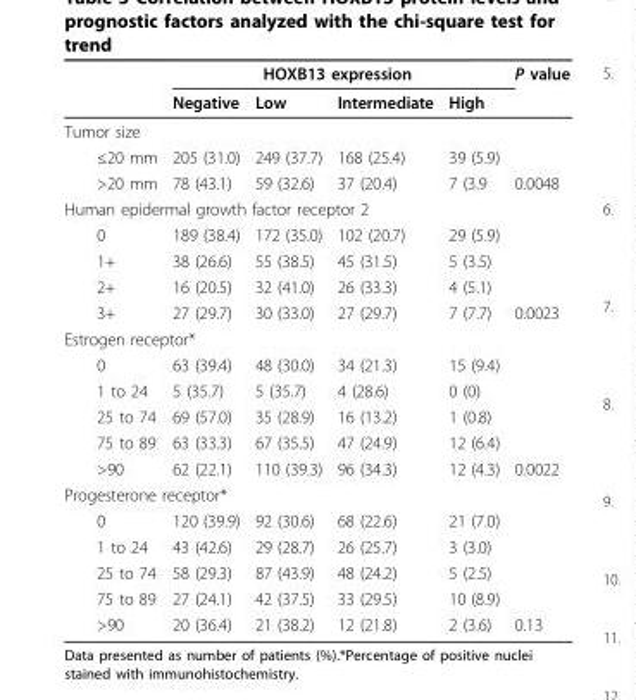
<table><thead><tr><td rowspan="2"></td><td colspan="4">HOXB13 expression</td><td rowspan="2">P value</td></tr><tr><td>Negative</td><td>Low</td><td>Intermediate</td><td>High</td></tr></thead><tbody><tr><td colspan="6">Tumor size</td></tr><tr><td>≤20 mm</td><td>205 (31.0)</td><td>249 (37.7)</td><td>168 (25.4)</td><td>39 (5.9)</td><td></td></tr><tr><td>&gt;20 mm</td><td>78 (43.1)</td><td>59 (32.6)</td><td>37 (20.4)</td><td>7 (3.9</td><td>0.0048</td></tr><tr><td colspan="6">Human epidermal growth factor receptor 2</td></tr><tr><td>0</td><td>189 (38.4)</td><td>172 (35.0)</td><td>102 (20.7)</td><td>29 (5.9)</td><td></td></tr><tr><td>1+</td><td>38 (26.6)</td><td>55 (38.5)</td><td>45 (31.5)</td><td>5 (3.5)</td><td></td></tr><tr><td>2+</td><td>16 (20.5)</td><td>32 (41.0)</td><td>26 (33.3)</td><td>4 (5.1)</td><td></td></tr><tr><td>3+</td><td>27 (29.7)</td><td>30 (33.0)</td><td>27 (29.7)</td><td>7 (7.7)</td><td>0.0023</td></tr><tr><td colspan="6">Estrogen receptor*</td></tr><tr><td>0</td><td>63 (39.4)</td><td>48 (30.0)</td><td>34 (21.3)</td><td>15 (9.4)</td><td></td></tr><tr><td>1 to 24</td><td>5 (35.7)</td><td>5 (35.7)</td><td>4 (28.6)</td><td>0 (0)</td><td></td></tr><tr><td>25 to 74</td><td>69 (57.0)</td><td>35 (28.9)</td><td>16 (13.2)</td><td>1 (0.8)</td><td></td></tr><tr><td>75 to 89</td><td>63 (33.3)</td><td>67 (35.5)</td><td>47 (24.9)</td><td>12 (6.4)</td><td></td></tr><tr><td>&gt;90</td><td>62 (22.1)</td><td>110 (39.3)</td><td>96 (34.3)</td><td>12 (4.3)</td><td>0.0022</td></tr><tr><td colspan="6">Progesterone receptor*</td></tr><tr><td>0</td><td>120 (39.9)</td><td>92 (30.6)</td><td>68 (22.6)</td><td>21 (7.0)</td><td></td></tr><tr><td>1 to 24</td><td>43 (42.6)</td><td>29 (28.7)</td><td>26 (25.7)</td><td>3 (3.0)</td><td></td></tr><tr><td>25 to 74</td><td>58 (29.3)</td><td>87 (43.9)</td><td>48 (24.2)</td><td>5 (2.5)</td><td></td></tr><tr><td>75 to 89</td><td>27 (24.1)</td><td>42 (37.5)</td><td>33 (29.5)</td><td>10 (8.9)</td><td></td></tr><tr><td>&gt;90</td><td>20 (36.4)</td><td>21 (38.2)</td><td>12 (21.8)</td><td>2 (3.6)</td><td>0.13</td></tr></tbody></table>